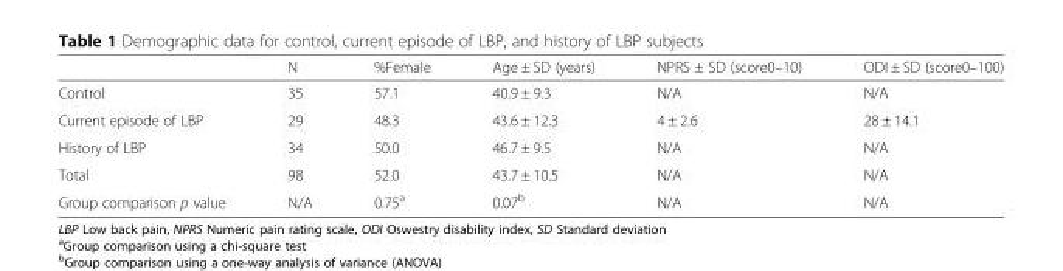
<table><thead><tr><td></td><td>N</td><td>%Female</td><td>Age ± SD (years)</td><td>NPRS ± SD (score0–10)</td><td>ODI ± SD (score0–100)</td></tr></thead><tbody><tr><td>Control</td><td>35</td><td>57.1</td><td>40.9 ± 9.3</td><td>N/A</td><td>N/A</td></tr><tr><td>Current episode of LBP</td><td>29</td><td>48.3</td><td>43.6 ± 12.3</td><td>4 ± 2.6</td><td>28 ± 14.1</td></tr><tr><td>History of LBP</td><td>34</td><td>50.0</td><td>46.7 ± 9.5</td><td>N/A</td><td>N/A</td></tr><tr><td>Total</td><td>98</td><td>52.0</td><td>43.7 ± 10.5</td><td>N/A</td><td>N/A</td></tr><tr><td>Group comparison p value</td><td>N/A</td><td>0.75<sup>a</sup></td><td>0.07<sup>b</sup></td><td>N/A</td><td>N/A</td></tr></tbody></table>